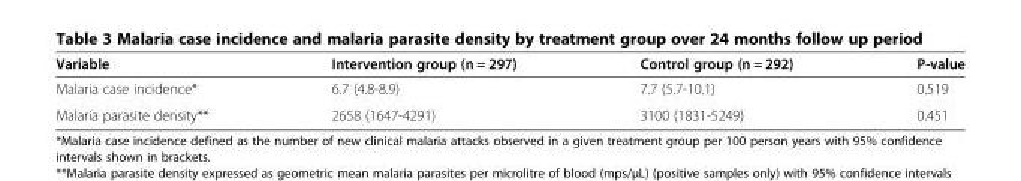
<table><thead><tr><td>Variable</td><td>Intervention group (n = 297)</td><td>Control group (n = 292)</td><td>P-value</td></tr></thead><tbody><tr><td>Malaria case incidence*</td><td>6.7 (4.8-8.9)</td><td>7.7 (5.7-10.1)</td><td>0.519</td></tr><tr><td>Malaria parasite density**</td><td>2658 (1647-4291)</td><td>3100 (1831-5249)</td><td>0.451</td></tr></tbody></table>